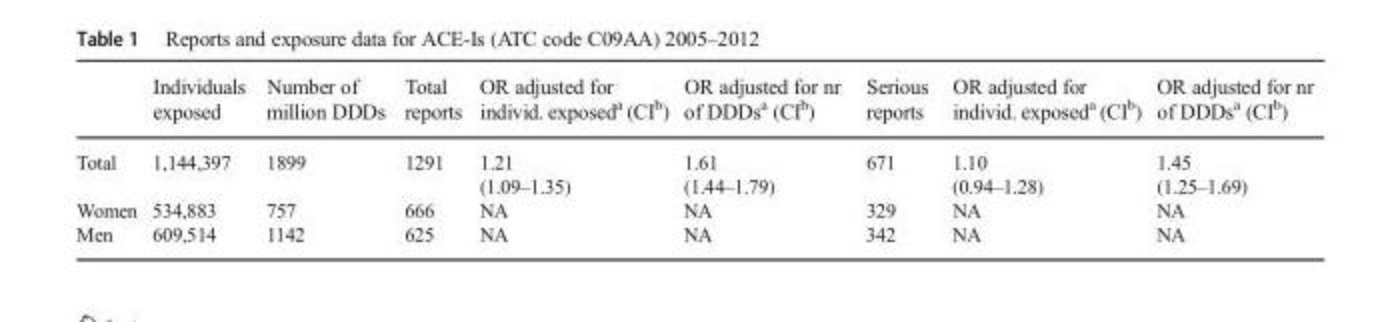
<table><thead><tr><td></td><td>Individuals exposed</td><td>Number of million DDDs</td><td>Total reports</td><td>OR adjusted for individ. exposed<sup>a</sup> (CI<sup>b</sup>)</td><td>OR adjusted for nr of DDDs<sup>a</sup> (CI<sup>b</sup>)</td><td>Serious reports</td><td>OR adjusted for individ. exposed<sup>a</sup> (CI<sup>b</sup>)</td><td>OR adjusted for nr of DDDs<sup>a</sup> (CI<sup>b</sup>)</td></tr></thead><tbody><tr><td>Total</td><td>1,144,397</td><td>1899</td><td>1291</td><td>1.21 (1.09–1.35)</td><td>1.61 (1.44–1.79)</td><td>671</td><td>1.10 (0.94–1.28)</td><td>1.45 (1.25–1.69)</td></tr><tr><td>Women</td><td>534,883</td><td>757</td><td>666</td><td>NA</td><td>NA</td><td>329</td><td>NA</td><td>NA</td></tr><tr><td>Men</td><td>609,514</td><td>1142</td><td>625</td><td>NA</td><td>NA</td><td>342</td><td>NA</td><td>NA</td></tr></tbody></table>